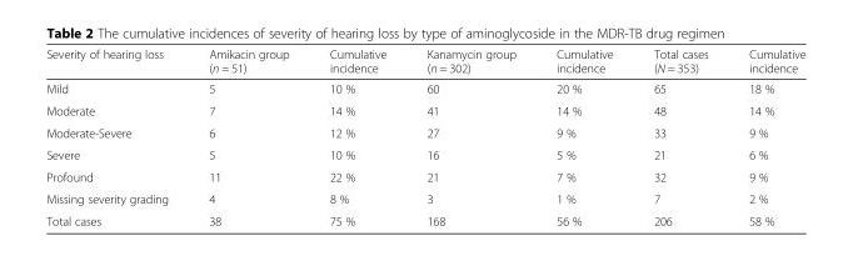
<table><thead><tr><td>Severity of hearing loss</td><td>Amikacin group (n = 51)</td><td>Cumulative incidence</td><td>Kanamycin group (n = 302)</td><td>Cumulative incidence</td><td>Total cases (N = 353)</td><td>Cumulative incidence</td></tr></thead><tbody><tr><td>Mild</td><td>5</td><td>10 %</td><td>60</td><td>20 %</td><td>65</td><td>18 %</td></tr><tr><td>Moderate</td><td>7</td><td>14 %</td><td>41</td><td>14 %</td><td>48</td><td>14 %</td></tr><tr><td>Moderate-Severe</td><td>6</td><td>12 %</td><td>27</td><td>9 %</td><td>33</td><td>9 %</td></tr><tr><td>Severe</td><td>5</td><td>10 %</td><td>16</td><td>5 %</td><td>21</td><td>6 %</td></tr><tr><td>Profound</td><td>11</td><td>22 %</td><td>21</td><td>7 %</td><td>32</td><td>9 %</td></tr><tr><td>Missing severity grading</td><td>4</td><td>8 %</td><td>3</td><td>1 %</td><td>7</td><td>2 %</td></tr><tr><td>Total cases</td><td>38</td><td>75 %</td><td>168</td><td>56 %</td><td>206</td><td>58 %</td></tr></tbody></table>